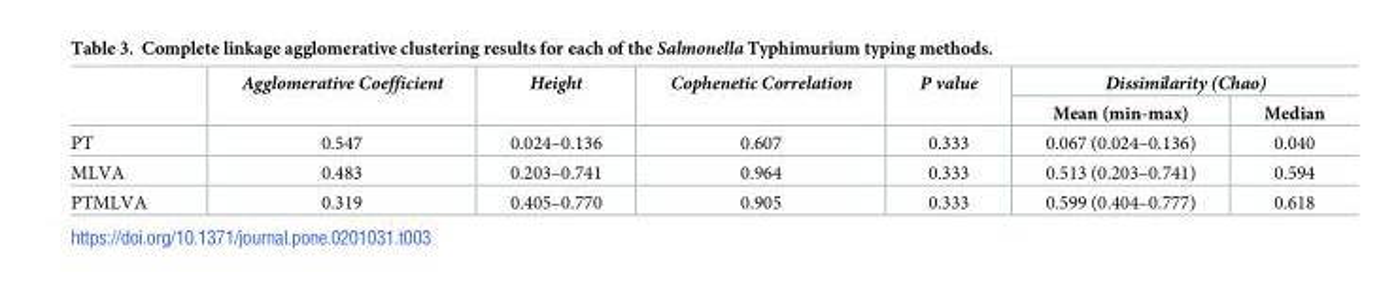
<table><thead><tr><td rowspan="2"></td><td rowspan="2">Agglomerative Coefficient</td><td rowspan="2">Height</td><td rowspan="2">Cophenetic Correlation</td><td rowspan="2">P value</td><td colspan="2">Dissimilarity (Chao)</td></tr><tr><td>Mean (min-max)</td><td>Median</td></tr></thead><tbody><tr><td>PT</td><td>0.547</td><td>0.024–0.136</td><td>0.607</td><td>0.333</td><td>0.067 (0.024–0.136)</td><td>0.040</td></tr><tr><td>MLVA</td><td>0.483</td><td>0.203–0.741</td><td>0.964</td><td>0.333</td><td>0.513 (0.203–0.741)</td><td>0.594</td></tr><tr><td>PTMLVA</td><td>0.319</td><td>0.405–0.770</td><td>0.905</td><td>0.333</td><td>0.599 (0.404–0.777)</td><td>0.618</td></tr></tbody></table>